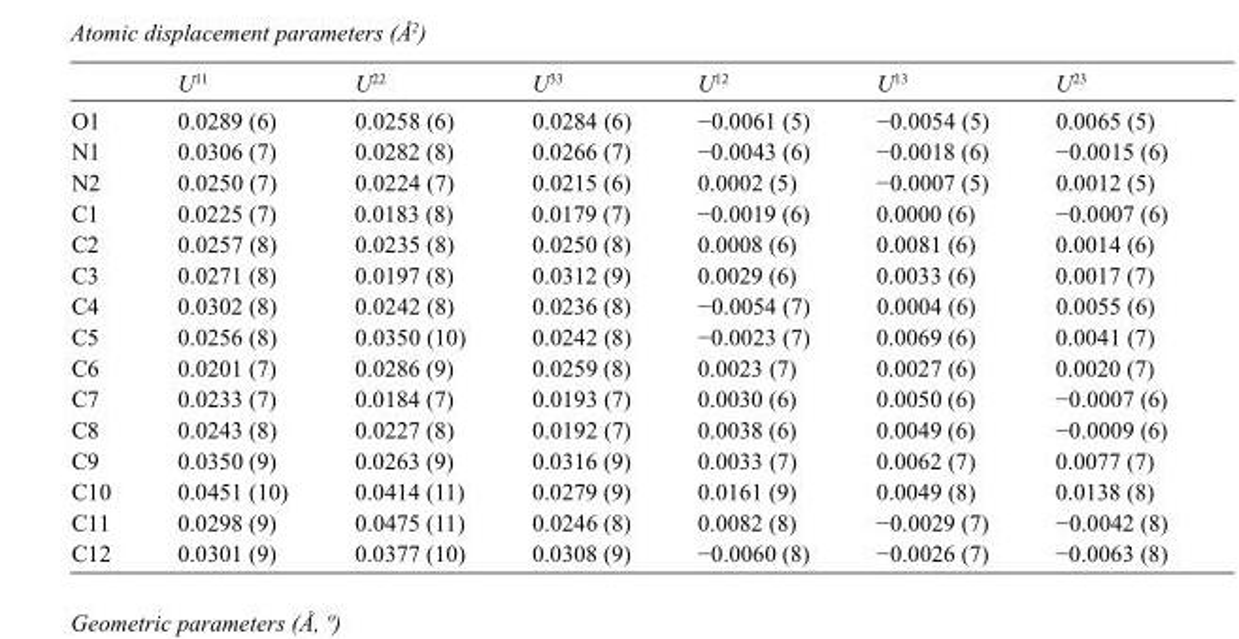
<table><thead><tr><td></td><td>U<sup>11</sup></td><td>U<sup>22</sup></td><td>U<sup>33</sup></td><td>U<sup>12</sup></td><td>U<sup>13</sup></td><td>U<sup>23</sup></td></tr></thead><tbody><tr><td>O1</td><td>0.0289 (6)</td><td>0.0258 (6)</td><td>0.0284 (6)</td><td>−0.0061 (5)</td><td>−0.0054 (5)</td><td>0.0065 (5)</td></tr><tr><td>N1</td><td>0.0306 (7)</td><td>0.0282 (8)</td><td>0.0266 (7)</td><td>−0.0043 (6)</td><td>−0.0018 (6)</td><td>−0.0015 (6)</td></tr><tr><td>N2</td><td>0.0250 (7)</td><td>0.0224 (7)</td><td>0.0215 (6)</td><td>0.0002 (5)</td><td>−0.0007 (5)</td><td>0.0012 (5)</td></tr><tr><td>C1</td><td>0.0225 (7)</td><td>0.0183 (8)</td><td>0.0179 (7)</td><td>−0.0019 (6)</td><td>0.0000 (6)</td><td>−0.0007 (6)</td></tr><tr><td>C2</td><td>0.0257 (8)</td><td>0.0235 (8)</td><td>0.0250 (8)</td><td>0.0008 (6)</td><td>0.0081 (6)</td><td>0.0014 (6)</td></tr><tr><td>C3</td><td>0.0271 (8)</td><td>0.0197 (8)</td><td>0.0312 (9)</td><td>0.0029 (6)</td><td>0.0033 (6)</td><td>0.0017 (7)</td></tr><tr><td>C4</td><td>0.0302 (8)</td><td>0.0242 (8)</td><td>0.0236 (8)</td><td>−0.0054 (7)</td><td>0.0004 (6)</td><td>0.0055 (6)</td></tr><tr><td>C5</td><td>0.0256 (8)</td><td>0.0350 (10)</td><td>0.0242 (8)</td><td>−0.0023 (7)</td><td>0.0069 (6)</td><td>0.0041 (7)</td></tr><tr><td>C6</td><td>0.0201 (7)</td><td>0.0286 (9)</td><td>0.0259 (8)</td><td>0.0023 (7)</td><td>0.0027 (6)</td><td>0.0020 (7)</td></tr><tr><td>C7</td><td>0.0233 (7)</td><td>0.0184 (7)</td><td>0.0193 (7)</td><td>0.0030 (6)</td><td>0.0050 (6)</td><td>−0.0007 (6)</td></tr><tr><td>C8</td><td>0.0243 (8)</td><td>0.0227 (8)</td><td>0.0192 (7)</td><td>0.0038 (6)</td><td>0.0049 (6)</td><td>−0.0009 (6)</td></tr><tr><td>C9</td><td>0.0350 (9)</td><td>0.0263 (9)</td><td>0.0316 (9)</td><td>0.0033 (7)</td><td>0.0062 (7)</td><td>0.0077 (7)</td></tr><tr><td>C10</td><td>0.0451 (10)</td><td>0.0414 (11)</td><td>0.0279 (9)</td><td>0.0161 (9)</td><td>0.0049 (8)</td><td>0.0138 (8)</td></tr><tr><td>C11</td><td>0.0298 (9)</td><td>0.0475 (11)</td><td>0.0246 (8)</td><td>0.0082 (8)</td><td>−0.0029 (7)</td><td>−0.0042 (8)</td></tr><tr><td>C12</td><td>0.0301 (9)</td><td>0.0377 (10)</td><td>0.0308 (9)</td><td>−0.0060 (8)</td><td>−0.0026 (7)</td><td>−0.0063 (8)</td></tr></tbody></table>